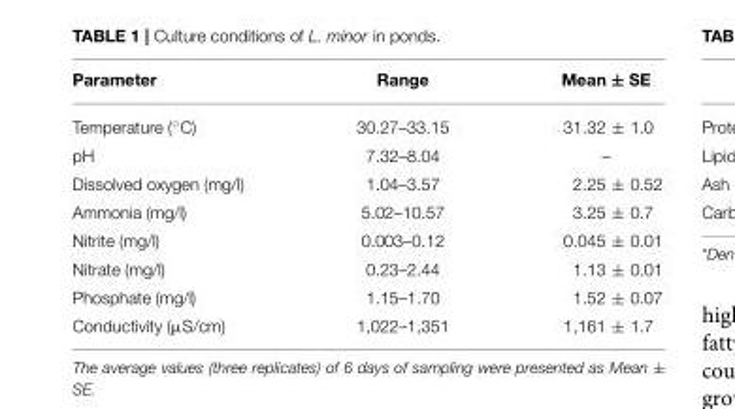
<table><thead><tr><td>Parameter</td><td>Range</td><td>Mean ± SE</td></tr></thead><tbody><tr><td>Temperature (◦C)</td><td>30.27–33.15</td><td>31.32 ± 1.0</td></tr><tr><td>pH</td><td>7.32–8.04</td><td>–</td></tr><tr><td>Dissolved oxygen (mg/l)</td><td>1.04–3.57</td><td>2.25 ± 0.52</td></tr><tr><td>Ammonia (mg/l)</td><td>5.02–10.57</td><td>3.25 ± 0.7</td></tr><tr><td>Nitrite (mg/l)</td><td>0.003–0.12</td><td>0.045 ± 0.01</td></tr><tr><td>Nitrate (mg/l)</td><td>0.23–2.44</td><td>1.13 ± 0.01</td></tr><tr><td>Phosphate (mg/l)</td><td>1.15–1.70</td><td>1.52 ± 0.07</td></tr><tr><td>Conductivity (µS/cm)</td><td>1,022–1,351</td><td>1,161 ± 1.7</td></tr></tbody></table>